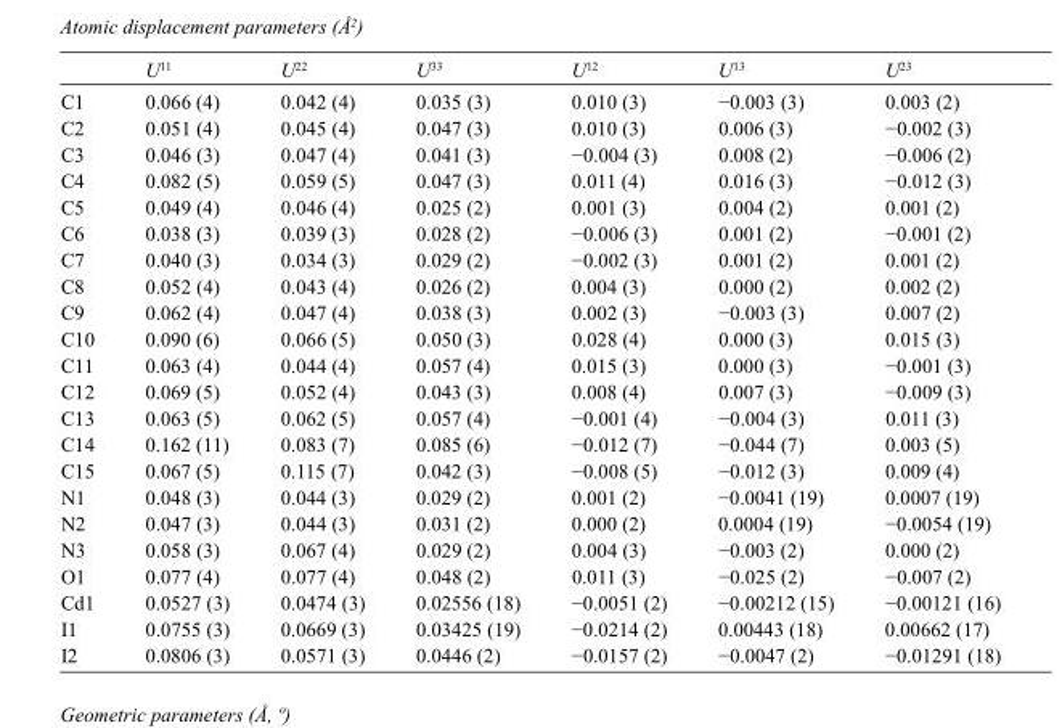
<table><thead><tr><td></td><td>U<sup>11</sup></td><td>U<sup>22</sup></td><td>U<sup>33</sup></td><td>U<sup>12</sup></td><td>U<sup>13</sup></td><td>U<sup>23</sup></td></tr></thead><tbody><tr><td>C1</td><td>0.066 (4)</td><td>0.042 (4)</td><td>0.035 (3)</td><td>0.010 (3)</td><td>−0.003 (3)</td><td>0.003 (2)</td></tr><tr><td>C2</td><td>0.051 (4)</td><td>0.045 (4)</td><td>0.047 (3)</td><td>0.010 (3)</td><td>0.006 (3)</td><td>−0.002 (3)</td></tr><tr><td>C3</td><td>0.046 (3)</td><td>0.047 (4)</td><td>0.041 (3)</td><td>−0.004 (3)</td><td>0.008 (2)</td><td>−0.006 (2)</td></tr><tr><td>C4</td><td>0.082 (5)</td><td>0.059 (5)</td><td>0.047 (3)</td><td>0.011 (4)</td><td>0.016 (3)</td><td>−0.012 (3)</td></tr><tr><td>C5</td><td>0.049 (4)</td><td>0.046 (4)</td><td>0.025 (2)</td><td>0.001 (3)</td><td>0.004 (2)</td><td>0.001 (2)</td></tr><tr><td>C6</td><td>0.038 (3)</td><td>0.039 (3)</td><td>0.028 (2)</td><td>−0.006 (3)</td><td>0.001 (2)</td><td>−0.001 (2)</td></tr><tr><td>C7</td><td>0.040 (3)</td><td>0.034 (3)</td><td>0.029 (2)</td><td>−0.002 (3)</td><td>0.001 (2)</td><td>0.001 (2)</td></tr><tr><td>C8</td><td>0.052 (4)</td><td>0.043 (4)</td><td>0.026 (2)</td><td>0.004 (3)</td><td>0.000 (2)</td><td>0.002 (2)</td></tr><tr><td>C9</td><td>0.062 (4)</td><td>0.047 (4)</td><td>0.038 (3)</td><td>0.002 (3)</td><td>−0.003 (3)</td><td>0.007 (2)</td></tr><tr><td>C10</td><td>0.090 (6)</td><td>0.066 (5)</td><td>0.050 (3)</td><td>0.028 (4)</td><td>0.000 (3)</td><td>0.015 (3)</td></tr><tr><td>C11</td><td>0.063 (4)</td><td>0.044 (4)</td><td>0.057 (4)</td><td>0.015 (3)</td><td>0.000 (3)</td><td>−0.001 (3)</td></tr><tr><td>C12</td><td>0.069 (5)</td><td>0.052 (4)</td><td>0.043 (3)</td><td>0.008 (4)</td><td>0.007 (3)</td><td>−0.009 (3)</td></tr><tr><td>C13</td><td>0.063 (5)</td><td>0.062 (5)</td><td>0.057 (4)</td><td>−0.001 (4)</td><td>−0.004 (3)</td><td>0.011 (3)</td></tr><tr><td>C14</td><td>0.162 (11)</td><td>0.083 (7)</td><td>0.085 (6)</td><td>−0.012 (7)</td><td>−0.044 (7)</td><td>0.003 (5)</td></tr><tr><td>C15</td><td>0.067 (5)</td><td>0.115 (7)</td><td>0.042 (3)</td><td>−0.008 (5)</td><td>−0.012 (3)</td><td>0.009 (4)</td></tr><tr><td>N1</td><td>0.048 (3)</td><td>0.044 (3)</td><td>0.029 (2)</td><td>0.001 (2)</td><td>−0.0041 (19)</td><td>0.0007 (19)</td></tr><tr><td>N2</td><td>0.047 (3)</td><td>0.044 (3)</td><td>0.031 (2)</td><td>0.000 (2)</td><td>0.0004 (19)</td><td>−0.0054 (19)</td></tr><tr><td>N3</td><td>0.058 (3)</td><td>0.067 (4)</td><td>0.029 (2)</td><td>0.004 (3)</td><td>−0.003 (2)</td><td>0.000 (2)</td></tr><tr><td>O1</td><td>0.077 (4)</td><td>0.077 (4)</td><td>0.048 (2)</td><td>0.011 (3)</td><td>−0.025 (2)</td><td>−0.007 (2)</td></tr><tr><td>Cd1</td><td>0.0527 (3)</td><td>0.0474 (3)</td><td>0.02556 (18)</td><td>−0.0051 (2)</td><td>−0.00212 (15)</td><td>−0.00121 (16)</td></tr><tr><td>I1</td><td>0.0755 (3)</td><td>0.0669 (3)</td><td>0.03425 (19)</td><td>−0.0214 (2)</td><td>0.00443 (18)</td><td>0.00662 (17)</td></tr><tr><td>I2</td><td>0.0806 (3)</td><td>0.0571 (3)</td><td>0.0446 (2)</td><td>−0.0157 (2)</td><td>−0.0047 (2)</td><td>−0.01291 (18)</td></tr></tbody></table>